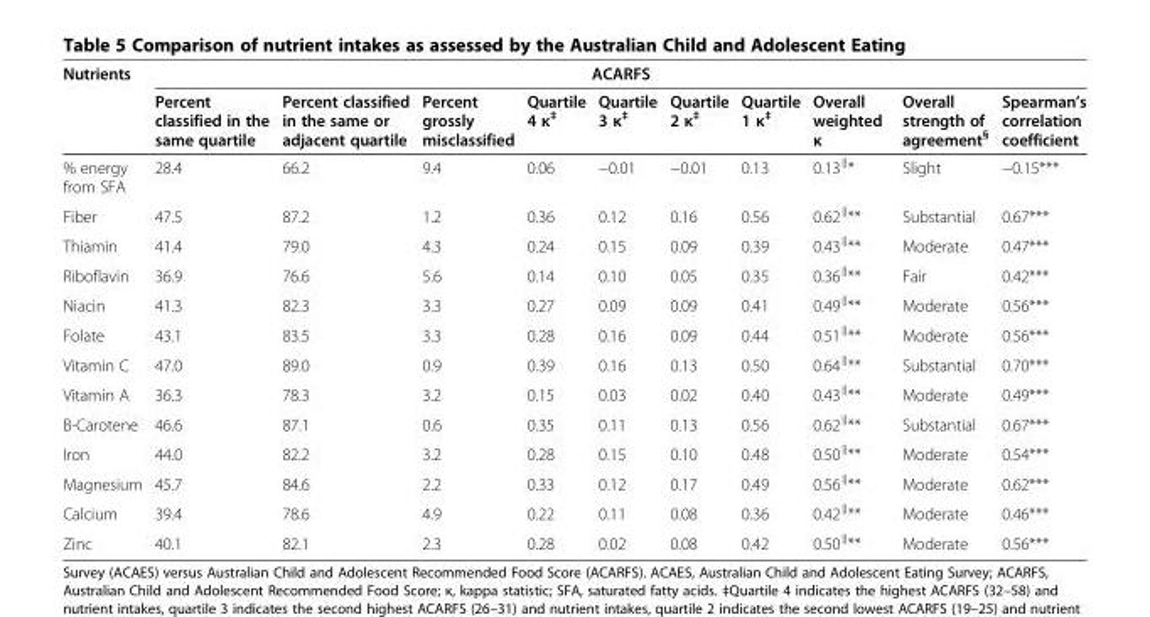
<table><thead><tr><td rowspan="2">Nutrients</td><td colspan="10">ACARFS</td></tr><tr><td>Percent classified in the same quartile</td><td>Percent classified in the same or adjacent quartile</td><td>Percent grossly misclassified</td><td>Quartile 4 κ<sup>‡</sup></td><td>Quartile 3 κ<sup>‡</sup></td><td>Quartile 2 κ<sup>‡</sup></td><td>Quartile 1 κ<sup>‡</sup></td><td>Overall weighted κ</td><td>Overall strength of agreement<sup>§</sup></td><td>Spearman’s correlation coefficient</td></tr></thead><tbody><tr><td>% energy from SFA</td><td>28.4</td><td>66.2</td><td>9.4</td><td>0.06</td><td>−0.01</td><td>−0.01</td><td>0.13</td><td>0.13<sup>∥</sup>*</td><td>Slight</td><td>−0.15***</td></tr><tr><td>Fiber</td><td>47.5</td><td>87.2</td><td>1.2</td><td>0.36</td><td>0.12</td><td>0.16</td><td>0.56</td><td>0.62<sup>∥</sup>**</td><td>Substantial</td><td>0.67***</td></tr><tr><td>Thiamin</td><td>41.4</td><td>79.0</td><td>4.3</td><td>0.24</td><td>0.15</td><td>0.09</td><td>0.39</td><td>0.43<sup>∥</sup>**</td><td>Moderate</td><td>0.47***</td></tr><tr><td>Riboflavin</td><td>36.9</td><td>76.6</td><td>5.6</td><td>0.14</td><td>0.10</td><td>0.05</td><td>0.35</td><td>0.36<sup>∥</sup>**</td><td>Fair</td><td>0.42***</td></tr><tr><td>Niacin</td><td>41.3</td><td>82.3</td><td>3.3</td><td>0.27</td><td>0.09</td><td>0.09</td><td>0.41</td><td>0.49<sup>∥</sup>**</td><td>Moderate</td><td>0.56***</td></tr><tr><td>Folate</td><td>43.1</td><td>83.5</td><td>3.3</td><td>0.28</td><td>0.16</td><td>0.09</td><td>0.44</td><td>0.51<sup>∥</sup>**</td><td>Moderate</td><td>0.56***</td></tr><tr><td>Vitamin C</td><td>47.0</td><td>89.0</td><td>0.9</td><td>0.39</td><td>0.16</td><td>0.13</td><td>0.50</td><td>0.64<sup>∥</sup>**</td><td>Substantial</td><td>0.70***</td></tr><tr><td>Vitamin A</td><td>36.3</td><td>78.3</td><td>3.2</td><td>0.15</td><td>0.03</td><td>0.02</td><td>0.40</td><td>0.43<sup>∥</sup>**</td><td>Moderate</td><td>0.49***</td></tr><tr><td>Β-Carotene</td><td>46.6</td><td>87.1</td><td>0.6</td><td>0.35</td><td>0.11</td><td>0.13</td><td>0.56</td><td>0.62<sup>∥</sup>**</td><td>Substantial</td><td>0.67***</td></tr><tr><td>Iron</td><td>44.0</td><td>82.2</td><td>3.2</td><td>0.28</td><td>0.15</td><td>0.10</td><td>0.48</td><td>0.50<sup>∥</sup>**</td><td>Moderate</td><td>0.54***</td></tr><tr><td>Magnesium</td><td>45.7</td><td>84.6</td><td>2.2</td><td>0.33</td><td>0.12</td><td>0.17</td><td>0.49</td><td>0.56<sup>∥</sup>**</td><td>Moderate</td><td>0.62***</td></tr><tr><td>Calcium</td><td>39.4</td><td>78.6</td><td>4.9</td><td>0.22</td><td>0.11</td><td>0.08</td><td>0.36</td><td>0.42<sup>∥</sup>**</td><td>Moderate</td><td>0.46***</td></tr><tr><td>Zinc</td><td>40.1</td><td>82.1</td><td>2.3</td><td>0.28</td><td>0.02</td><td>0.08</td><td>0.42</td><td>0.50<sup>∥</sup>**</td><td>Moderate</td><td>0.56***</td></tr></tbody></table>